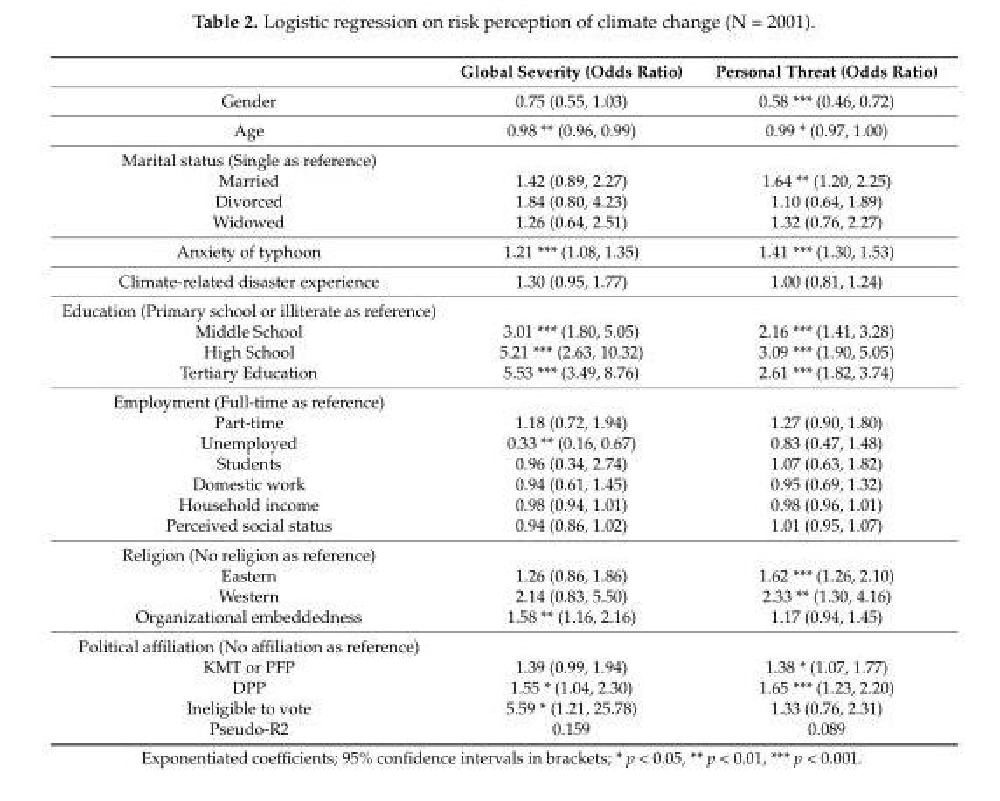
<table><thead><tr><td></td><td>Global Severity (Odds Ratio)</td><td>Personal Threat (Odds Ratio)</td></tr></thead><tbody><tr><td>Gender</td><td>0.75 (0.55, 1.03)</td><td>0.58 *** (0.46, 0.72)</td></tr><tr><td>Age</td><td>0.98 ** (0.96, 0.99)</td><td>0.99 * (0.97, 1.00)</td></tr><tr><td colspan="3">Marital status (Single as reference)</td></tr><tr><td>Married</td><td>1.42 (0.89, 2.27)</td><td>1.64 ** (1.20, 2.25)</td></tr><tr><td>Divorced</td><td>1.84 (0.80, 4.23)</td><td>1.10 (0.64, 1.89)</td></tr><tr><td>Widowed</td><td>1.26 (0.64, 2.51)</td><td>1.32 (0.76, 2.27)</td></tr><tr><td>Anxiety of typhoon</td><td>1.21 *** (1.08, 1.35)</td><td>1.41 *** (1.30, 1.53)</td></tr><tr><td>Climate-related disaster experience</td><td>1.30 (0.95, 1.77)</td><td>1.00 (0.81, 1.24)</td></tr><tr><td colspan="3">Education (Primary school or illiterate as reference)</td></tr><tr><td>Middle School</td><td>3.01 *** (1.80, 5.05)</td><td>2.16 *** (1.41, 3.28)</td></tr><tr><td>High School</td><td>5.21 *** (2.63, 10.32)</td><td>3.09 *** (1.90, 5.05)</td></tr><tr><td>Tertiary Education</td><td>5.53 *** (3.49, 8.76)</td><td>2.61 *** (1.82, 3.74)</td></tr><tr><td colspan="3">Employment (Full-time as reference)</td></tr><tr><td>Part-time</td><td>1.18 (0.72, 1.94)</td><td>1.27 (0.90, 1.80)</td></tr><tr><td>Unemployed</td><td>0.33 ** (0.16, 0.67)</td><td>0.83 (0.47, 1.48)</td></tr><tr><td>Students</td><td>0.96 (0.34, 2.74)</td><td>1.07 (0.63, 1.82)</td></tr><tr><td>Domestic work</td><td>0.94 (0.61, 1.45)</td><td>0.95 (0.69, 1.32)</td></tr><tr><td>Household income</td><td>0.98 (0.94, 1.01)</td><td>0.98 (0.96, 1.01)</td></tr><tr><td>Perceived social status</td><td>0.94 (0.86, 1.02)</td><td>1.01 (0.95, 1.07)</td></tr><tr><td colspan="3">Religion (No religion as reference)</td></tr><tr><td>Eastern</td><td>1.26 (0.86, 1.86)</td><td>1.62 *** (1.26, 2.10)</td></tr><tr><td>Western</td><td>2.14 (0.83, 5.50)</td><td>2.33 ** (1.30, 4.16)</td></tr><tr><td>Organizational embeddedness</td><td>1.58 ** (1.16, 2.16)</td><td>1.17 (0.94, 1.45)</td></tr><tr><td colspan="3">Political affiliation (No affiliation as reference)</td></tr><tr><td>KMT or PFP</td><td>1.39 (0.99, 1.94)</td><td>1.38 * (1.07, 1.77)</td></tr><tr><td>DPP</td><td>1.55 * (1.04, 2.30)</td><td>1.65 *** (1.23, 2.20)</td></tr><tr><td>Ineligible to vote</td><td>5.59 * (1.21, 25.78)</td><td>1.33 (0.76, 2.31)</td></tr><tr><td>Pseudo-R2</td><td>0.159</td><td>0.089</td></tr></tbody></table>